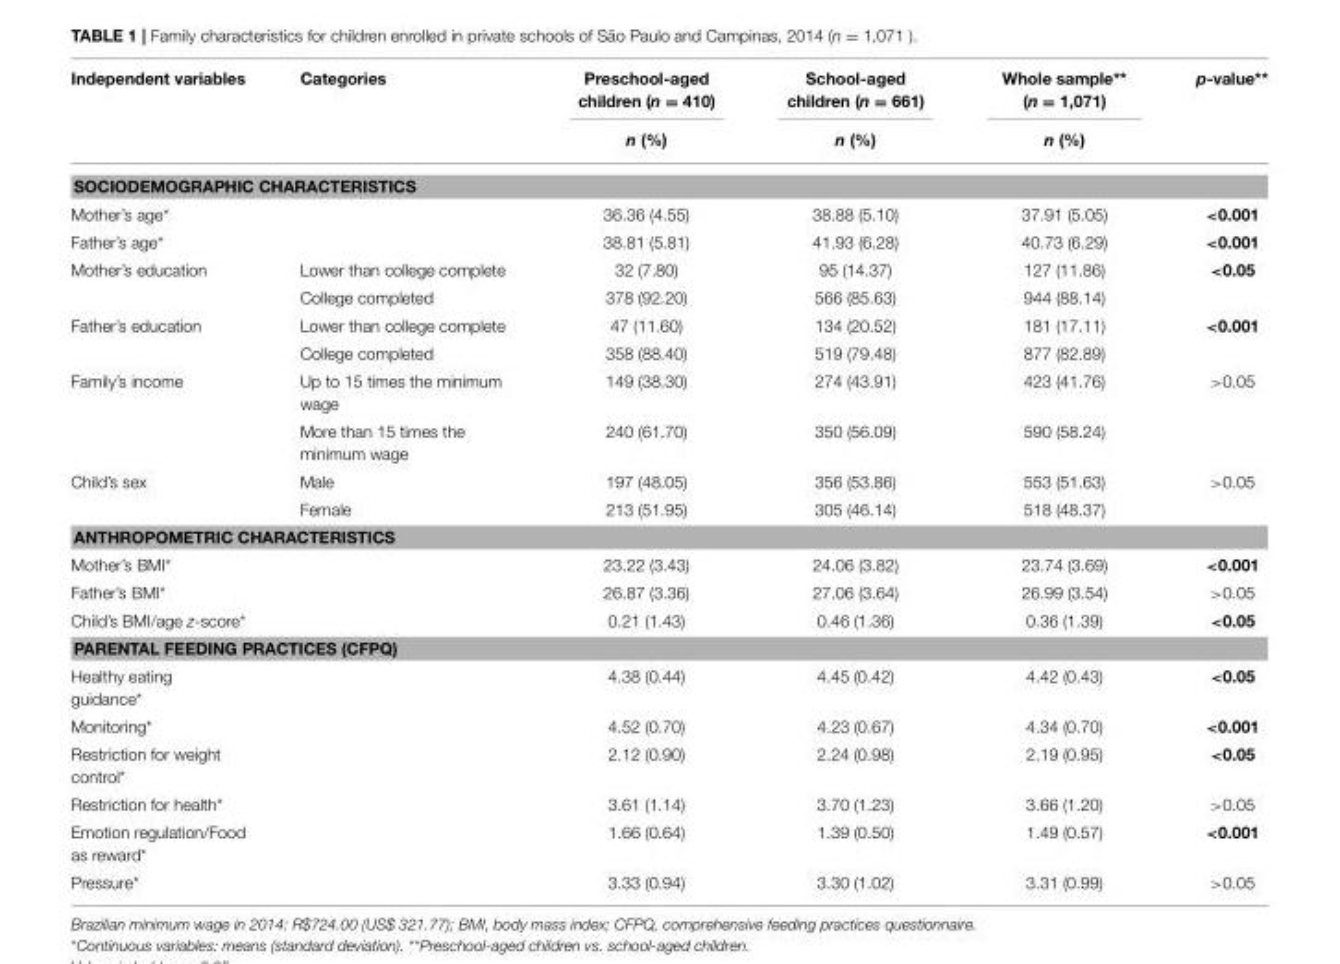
<table><thead><tr><td rowspan="2">Independent variables</td><td rowspan="2">Categories</td><td rowspan="2">Preschool-aged children (n = 410) n (%)</td><td rowspan="2">School-aged children (n = 661) n (%)</td><td rowspan="2">Whole sample** (n = 1,071) n (%)</td><td rowspan="2">p-value**</td></tr><tr></tr></thead><tbody><tr><td colspan="6">SOCIODEMOGRAPHIC CHARACTERISTICS</td></tr><tr><td>Mother’s age*</td><td></td><td>36.36 (4.55)</td><td>38.88 (5.10)</td><td>37.91 (5.05)</td><td>&lt;0.001</td></tr><tr><td>Father’s age*</td><td></td><td>38.81 (5.81)</td><td>41.93 (6.28)</td><td>40.73 (6.29)</td><td>&lt;0.001</td></tr><tr><td rowspan="2">Mother’s education</td><td>Lower than college complete</td><td>32 (7.80)</td><td>95 (14.37)</td><td>127 (11.86)</td><td>&lt;0.05</td></tr><tr><td>College completed</td><td>378 (92.20)</td><td>566 (85.63)</td><td>944 (88.14)</td><td></td></tr><tr><td rowspan="2">Father’s education</td><td>Lower than college complete</td><td>47 (11.60)</td><td>134 (20.52)</td><td>181 (17.11)</td><td>&lt;0.001</td></tr><tr><td>College completed</td><td>358 (88.40)</td><td>519 (79.48)</td><td>877 (82.89)</td><td></td></tr><tr><td rowspan="2">Family’s income</td><td>Up to 15 times the minimum wage</td><td>149 (38.30)</td><td>274 (43.91)</td><td>423 (41.76)</td><td>&gt;0.05</td></tr><tr><td>More than 15 times the minimum wage</td><td>240 (61.70)</td><td>350 (56.09)</td><td>590 (58.24)</td><td></td></tr><tr><td rowspan="2">Child’s sex</td><td>Male</td><td>197 (48.05)</td><td>356 (53.86)</td><td>553 (51.63)</td><td>&gt;0.05</td></tr><tr><td>Female</td><td>213 (51.95)</td><td>305 (46.14)</td><td>518 (48.37)</td><td></td></tr><tr><td colspan="6">ANTHROPOMETRIC CHARACTERISTICS</td></tr><tr><td>Mother’s BMI*</td><td></td><td>23.22 (3.43)</td><td>24.06 (3.82)</td><td>23.74 (3.69)</td><td>&lt;0.001</td></tr><tr><td>Father’s BMI*</td><td></td><td>26.87 (3.36)</td><td>27.06 (3.64)</td><td>26.99 (3.54)</td><td>&gt;0.05</td></tr><tr><td>Child’s BMI/age z-score*</td><td></td><td>0.21 (1.43)</td><td>0.46 (1.36)</td><td>0.36 (1.39)</td><td>&lt;0.05</td></tr><tr><td colspan="6">PARENTAL FEEDING PRACTICES (CFPQ)</td></tr><tr><td>Healthy eating guidance*</td><td></td><td>4.38 (0.44)</td><td>4.45 (0.42)</td><td>4.42 (0.43)</td><td>&lt;0.05</td></tr><tr><td>Monitoring*</td><td></td><td>4.52 (0.70)</td><td>4.23 (0.67)</td><td>4.34 (0.70)</td><td>&lt;0.001</td></tr><tr><td>Restriction for weight control*</td><td></td><td>2.12 (0.90)</td><td>2.24 (0.98)</td><td>2.19 (0.95)</td><td>&lt;0.05</td></tr><tr><td>Restriction for health*</td><td></td><td>3.61 (1.14)</td><td>3.70 (1.23)</td><td>3.66 (1.20)</td><td>&gt;0.05</td></tr><tr><td>Emotion regulation/Food as reward*</td><td></td><td>1.66 (0.64)</td><td>1.39 (0.50)</td><td>1.49 (0.57)</td><td>&lt;0.001</td></tr><tr><td>Pressure*</td><td></td><td>3.33 (0.94)</td><td>3.30 (1.02)</td><td>3.31 (0.99)</td><td>&gt;0.05</td></tr></tbody></table>